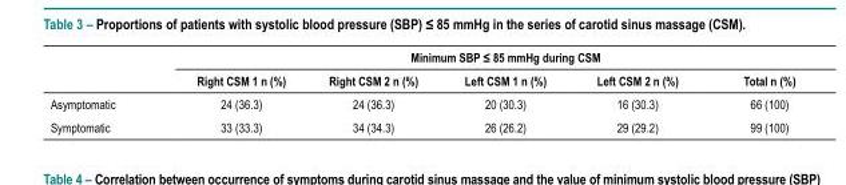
<table><thead><tr><td rowspan="2"></td><td colspan="5">Minimum SBP ≤ 85 mmHg during CSM</td></tr><tr><td>Right CSM 1 n (%)</td><td>Right CSM 2 n (%)</td><td>Left CSM 1 n (%)</td><td>Left CSM 2 n (%)</td><td>Total n (%)</td></tr></thead><tbody><tr><td>Asymptomatic</td><td>24 (36.3)</td><td>24 (36.3)</td><td>20 (30.3)</td><td>16 (30.3)</td><td>66 (100)</td></tr><tr><td>Symptomatic</td><td>33 (33.3)</td><td>34 (34.3)</td><td>26 (26.2)</td><td>29 (29.2)</td><td>99 (100)</td></tr></tbody></table>